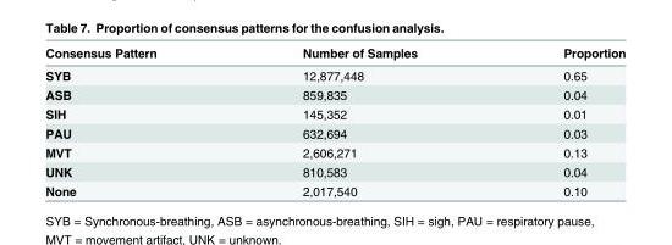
<table><thead><tr><td>Consensus Pattern</td><td>Number of Samples</td><td>Proportion</td></tr></thead><tbody><tr><td>SYB</td><td>12,877,448</td><td>0.65</td></tr><tr><td>ASB</td><td>859,835</td><td>0.04</td></tr><tr><td>SIH</td><td>145,352</td><td>0.01</td></tr><tr><td>PAU</td><td>632,694</td><td>0.03</td></tr><tr><td>MVT</td><td>2,606,271</td><td>0.13</td></tr><tr><td>UNK</td><td>810,583</td><td>0.04</td></tr><tr><td>None</td><td>2,017,540</td><td>0.10</td></tr></tbody></table>